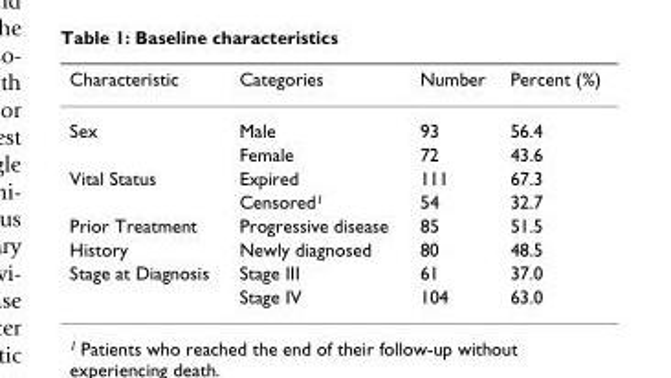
<table><thead><tr><td>Characteristic</td><td>Categories</td><td>Number</td><td>Percent (%)</td></tr></thead><tbody><tr><td rowspan="2">Sex</td><td>Male</td><td>93</td><td>56.4</td></tr><tr><td>Female</td><td>72</td><td>43.6</td></tr><tr><td rowspan="2">Vital Status</td><td>Expired</td><td>111</td><td>67.3</td></tr><tr><td>Censored<sup>1</sup></td><td>54</td><td>32.7</td></tr><tr><td>Prior Treatment</td><td>Progressive disease</td><td>85</td><td>51.5</td></tr><tr><td>History</td><td>Newly diagnosed</td><td>80</td><td>48.5</td></tr><tr><td rowspan="2">Stage at Diagnosis</td><td>Stage III</td><td>61</td><td>37.0</td></tr><tr><td>Stage IV</td><td>104</td><td>63.0</td></tr></tbody></table>